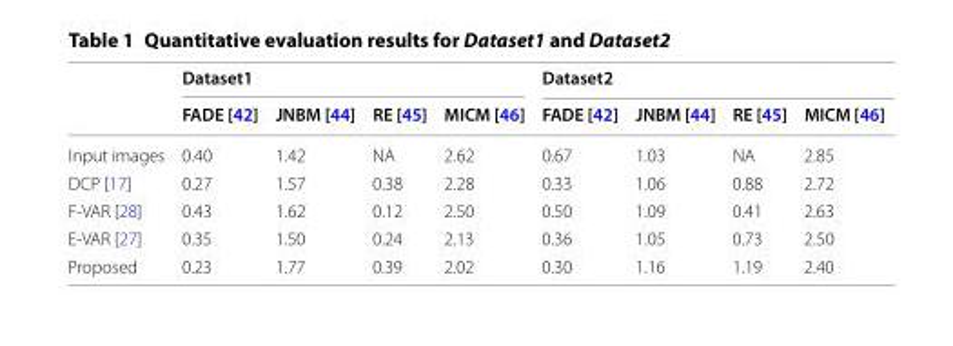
<table><thead><tr><td rowspan="2"></td><td colspan="4">Dataset1</td><td colspan="4">Dataset2</td></tr><tr><td>FADE [42]</td><td>JNBM [44]</td><td>RE [45]</td><td>MICM [46]</td><td>FADE [42]</td><td>JNBM [44]</td><td>RE [45]</td><td>MICM [46]</td></tr></thead><tbody><tr><td>Input images</td><td>0.40</td><td>1.42</td><td>NA</td><td>2.62</td><td>0.67</td><td>1.03</td><td>NA</td><td>2.85</td></tr><tr><td>DCP [17]</td><td>0.27</td><td>1.57</td><td>0.38</td><td>2.28</td><td>0.33</td><td>1.06</td><td>0.88</td><td>2.72</td></tr><tr><td>F-VAR [28]</td><td>0.43</td><td>1.62</td><td>0.12</td><td>2.50</td><td>0.50</td><td>1.09</td><td>0.41</td><td>2.63</td></tr><tr><td>E-VAR [27]</td><td>0.35</td><td>1.50</td><td>0.24</td><td>2.13</td><td>0.36</td><td>1.05</td><td>0.73</td><td>2.50</td></tr><tr><td>Proposed</td><td>0.23</td><td>1.77</td><td>0.39</td><td>2.02</td><td>0.30</td><td>1.16</td><td>1.19</td><td>2.40</td></tr></tbody></table>